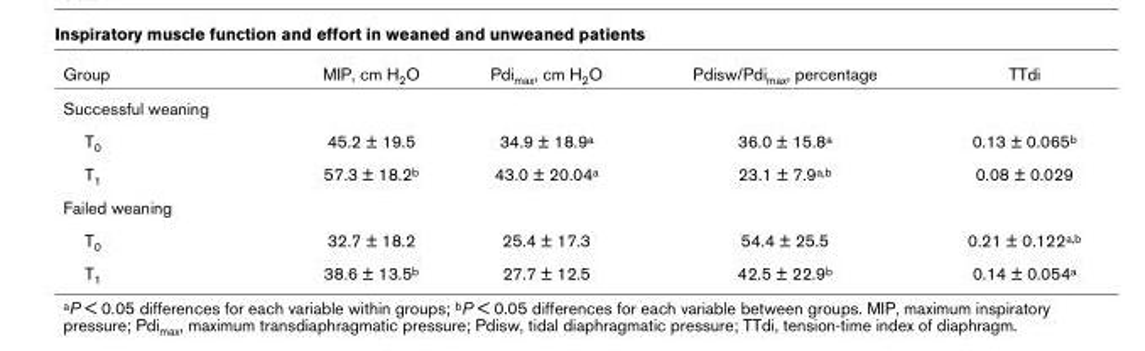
<table><thead><tr><td>Group</td><td>MIP, cm H<sub>2</sub>O</td><td>Pdi<sub>max</sub>, cm H<sub>2</sub>O</td><td>Pdisw/Pdi<sub>max</sub>, percentage</td><td>TTdi</td></tr></thead><tbody><tr><td colspan="5">Successful weaning</td></tr><tr><td>T<sub>0</sub></td><td>45.2 ± 19.5</td><td>34.9 ± 18.9<sup>a</sup></td><td>36.0 ± 15.8<sup>a</sup></td><td>0.13 ± 0.065<sup>b</sup></td></tr><tr><td>T<sub>1</sub></td><td>57.3 ± 18.2<sup>b</sup></td><td>43.0 ± 20.04<sup>a</sup></td><td>23.1 ± 7.9<sup>a,b</sup></td><td>0.08 ± 0.029</td></tr><tr><td colspan="5">Failed weaning</td></tr><tr><td>T<sub>0</sub></td><td>32.7 ± 18.2</td><td>25.4 ± 17.3</td><td>54.4 ± 25.5</td><td>0.21 ± 0.122<sup>a,b</sup></td></tr><tr><td>T<sub>1</sub></td><td>38.6 ± 13.5<sup>b</sup></td><td>27.7 ± 12.5</td><td>42.5 ± 22.9<sup>b</sup></td><td>0.14 ± 0.054<sup>a</sup></td></tr></tbody></table>